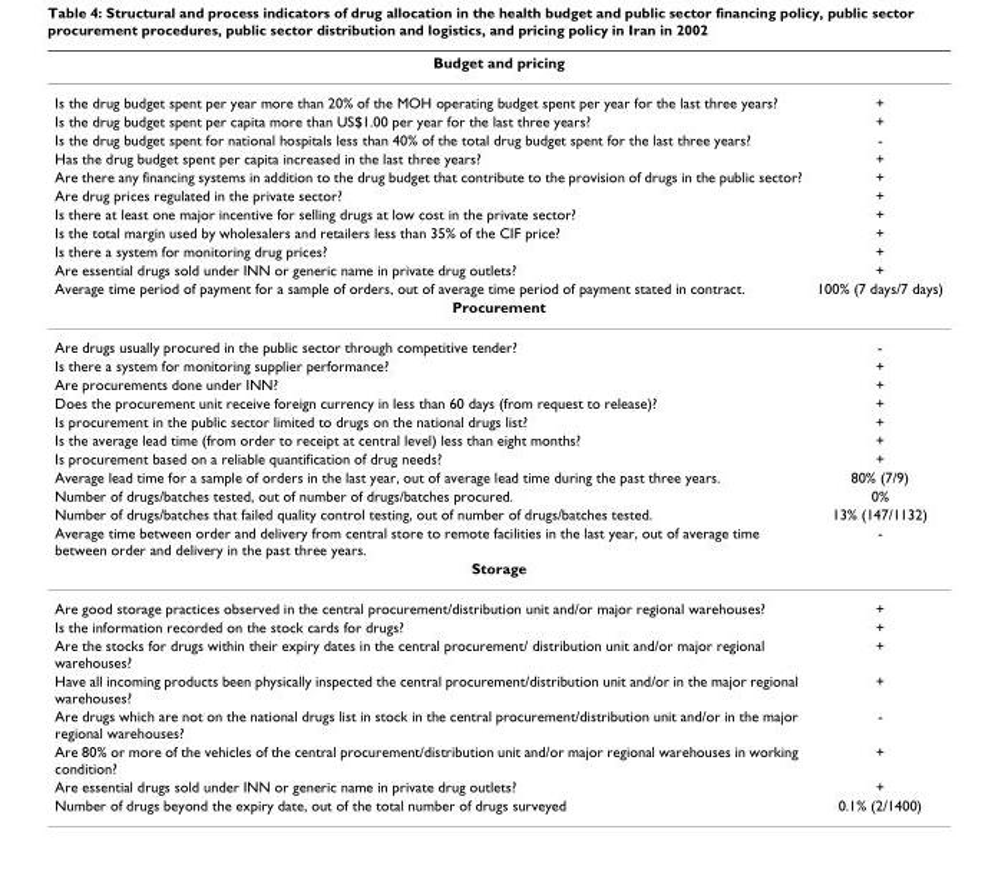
<table><thead><tr><td colspan="2">Budget and pricing</td></tr><tr><td>Is the drug budget spent per year more than 20% of the MOH operating budget spent per year for the last three years?</td><td>+</td></tr></thead><tbody><tr><td>Is the drug budget spent per capita more than US$1.00 per year for the last three years?</td><td>+</td></tr><tr><td>Is the drug budget spent for national hospitals less than 40% of the total drug budget spent for the last three years?</td><td>-</td></tr><tr><td>Has the drug budget spent per capita increased in the last three years?</td><td>+</td></tr><tr><td>Are there any financing systems in addition to the drug budget that contribute to the provision of drugs in the public sector?</td><td>+</td></tr><tr><td>Are drug prices regulated in the private sector?</td><td>+</td></tr><tr><td>Is there at least one major incentive for selling drugs at low cost in the private sector?</td><td>+</td></tr><tr><td>Is the total margin used by wholesalers and retailers less than 35% of the CIF price?</td><td>+</td></tr><tr><td>Is there a system for monitoring drug prices?</td><td>+</td></tr><tr><td>Are essential drugs sold under INN or generic name in private drug outlets?</td><td>+</td></tr><tr><td>Average time period of payment for a sample of orders, out of average time period of payment stated in contract.</td><td>100% (7 days/7 days)</td></tr><tr><td colspan="2">Procurement</td></tr><tr><td>Are drugs usually procured in the public sector through competitive tender?</td><td>-</td></tr><tr><td>Is there a system for monitoring supplier performance?</td><td>+</td></tr><tr><td>Are procurements done under INN?</td><td>+</td></tr><tr><td>Does the procurement unit receive foreign currency in less than 60 days (from request to release)?</td><td>+</td></tr><tr><td>Is procurement in the public sector limited to drugs on the national drugs list?</td><td>+</td></tr><tr><td>Is the average lead time (from order to receipt at central level) less than eight months?</td><td>+</td></tr><tr><td>Is procurement based on a reliable quantification of drug needs?</td><td>+</td></tr><tr><td>Average lead time for a sample of orders in the last year, out of average lead time during the past three years.</td><td>80% (7/9)</td></tr><tr><td>Number of drugs/batches tested, out of number of drugs/batches procured.</td><td>0%</td></tr><tr><td>Number of drugs/batches that failed quality control testing, out of number of drugs/batches tested.</td><td>13% (147/1132)</td></tr><tr><td>Average time between order and delivery from central store to remote facilities in the last year, out of average time between order and delivery in the past three years.</td><td>-</td></tr><tr><td colspan="2">Storage</td></tr><tr><td>Are good storage practices observed in the central procurement/distribution unit and/or major regional warehouses?</td><td>+</td></tr><tr><td>Is the information recorded on the stock cards for drugs?</td><td>+</td></tr><tr><td>Are the stocks for drugs within their expiry dates in the central procurement/ distribution unit and/or major regional warehouses?</td><td>+</td></tr><tr><td>Have all incoming products been physically inspected the central procurement/distribution unit and/or in the major regional warehouses?</td><td>+</td></tr><tr><td>Are drugs which are not on the national drugs list in stock in the central procurement/distribution unit and/or in the major regional warehouses?</td><td>-</td></tr><tr><td>Are 80% or more of the vehicles of the central procurement/distribution unit and/or major regional warehouses in working condition?</td><td>+</td></tr><tr><td>Are essential drugs sold under INN or generic name in private drug outlets?</td><td>+</td></tr><tr><td>Number of drugs beyond the expiry date, out of the total number of drugs surveyed</td><td>0.1% (2/1400)</td></tr></tbody></table>